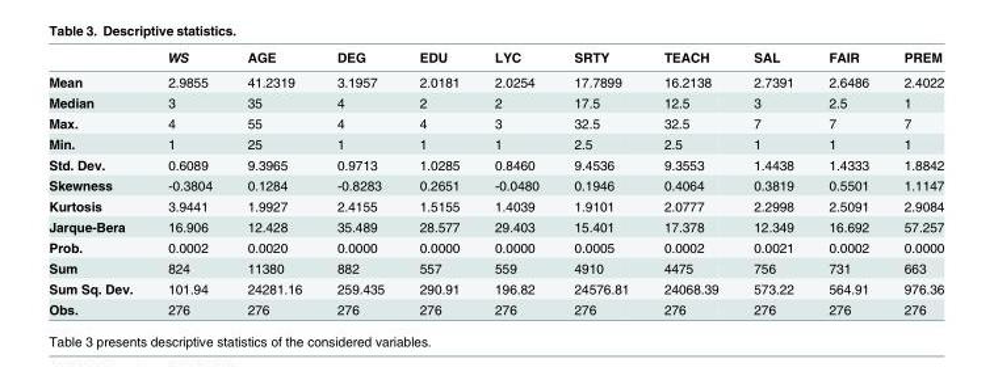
<table><thead><tr><td></td><td>WS</td><td>AGE</td><td>DEG</td><td>EDU</td><td>LYC</td><td>SRTY</td><td>TEACH</td><td>SAL</td><td>FAIR</td><td>PREM</td></tr></thead><tbody><tr><td>Mean</td><td>2.9855</td><td>41.2319</td><td>3.1957</td><td>2.0181</td><td>2.0254</td><td>17.7899</td><td>16.2138</td><td>2.7391</td><td>2.6486</td><td>2.4022</td></tr><tr><td>Median</td><td>3</td><td>35</td><td>4</td><td>2</td><td>2</td><td>17.5</td><td>12.5</td><td>3</td><td>2.5</td><td>1</td></tr><tr><td>Max.</td><td>4</td><td>55</td><td>4</td><td>4</td><td>3</td><td>32.5</td><td>32.5</td><td>7</td><td>7</td><td>7</td></tr><tr><td>Min.</td><td>1</td><td>25</td><td>1</td><td>1</td><td>1</td><td>2.5</td><td>2.5</td><td>1</td><td>1</td><td>1</td></tr><tr><td>Std. Dev.</td><td>0.6089</td><td>9.3965</td><td>0.9713</td><td>1.0285</td><td>0.8460</td><td>9.4536</td><td>9.3553</td><td>1.4438</td><td>1.4333</td><td>1.8842</td></tr><tr><td>Skewness</td><td>-0.3804</td><td>0.1284</td><td>-0.8283</td><td>0.2651</td><td>-0.0480</td><td>0.1946</td><td>0.4064</td><td>0.3819</td><td>0.5501</td><td>1.1147</td></tr><tr><td>Kurtosis</td><td>3.9441</td><td>1.9927</td><td>2.4155</td><td>1.5155</td><td>1.4039</td><td>1.9101</td><td>2.0777</td><td>2.2998</td><td>2.5091</td><td>2.9084</td></tr><tr><td>Jarque-Bera</td><td>16.906</td><td>12.428</td><td>35.489</td><td>28.577</td><td>29.403</td><td>15.401</td><td>17.378</td><td>12.349</td><td>16.692</td><td>57.257</td></tr><tr><td>Prob.</td><td>0.0002</td><td>0.0020</td><td>0.0000</td><td>0.0000</td><td>0.0000</td><td>0.0005</td><td>0.0002</td><td>0.0021</td><td>0.0002</td><td>0.0000</td></tr><tr><td>Sum</td><td>824</td><td>11380</td><td>882</td><td>557</td><td>559</td><td>4910</td><td>4475</td><td>756</td><td>731</td><td>663</td></tr><tr><td>Sum Sq. Dev.</td><td>101.94</td><td>24281.16</td><td>259.435</td><td>290.91</td><td>196.82</td><td>24576.81</td><td>24068.39</td><td>573.22</td><td>564.91</td><td>976.36</td></tr><tr><td>Obs.</td><td>276</td><td>276</td><td>276</td><td>276</td><td>276</td><td>276</td><td>276</td><td>276</td><td>276</td><td>276</td></tr></tbody></table>